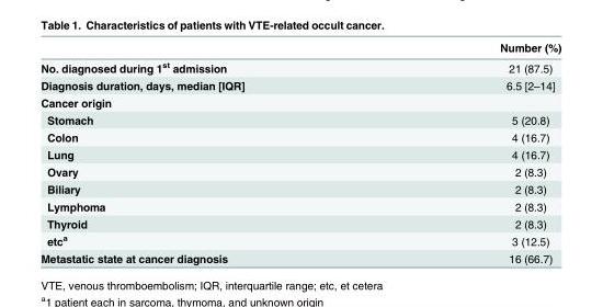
<table><thead><tr><td></td><td>Number (%)</td></tr></thead><tbody><tr><td>No. diagnosed during 1<sup>st</sup> admission</td><td>21 (87.5)</td></tr><tr><td>Diagnosis duration, days, median [IQR]</td><td>6.5 [2–14]</td></tr><tr><td colspan="2">Cancer origin</td></tr><tr><td>Stomach</td><td>5 (20.8)</td></tr><tr><td>Colon</td><td>4 (16.7)</td></tr><tr><td>Lung</td><td>4 (16.7)</td></tr><tr><td>Ovary</td><td>2 (8.3)</td></tr><tr><td>Biliary</td><td>2 (8.3)</td></tr><tr><td>Lymphoma</td><td>2 (8.3)</td></tr><tr><td>Thyroid</td><td>2 (8.3)</td></tr><tr><td>etc<sup>a</sup></td><td>3 (12.5)</td></tr><tr><td>Metastatic state at cancer diagnosis</td><td>16 (66.7)</td></tr></tbody></table>